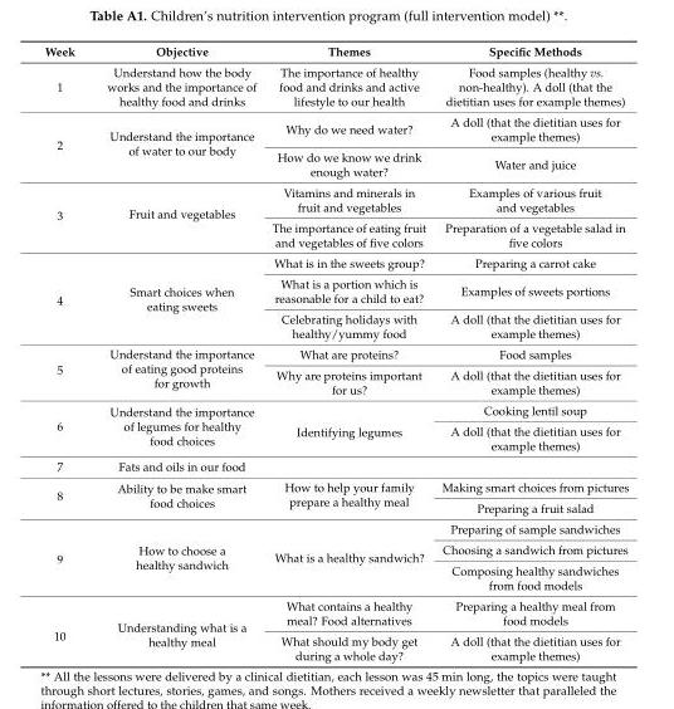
<table><thead><tr><td>Week</td><td>Objective</td><td>Themes</td><td>Specific Methods</td></tr></thead><tbody><tr><td>1</td><td>Understand how the body works and the importance of healthy food and drinks</td><td>The importance of healthy food and drinks and active lifestyle to our health</td><td>Food samples (healthy vs. non-healthy). A doll (that the dietitian uses for example themes)</td></tr><tr><td rowspan="2">2</td><td rowspan="2">Understand the importance of water to our body</td><td>Why do we need water?</td><td>A doll (that the dietitian uses for example themes)</td></tr><tr><td>How do we know we drink enough water?</td><td>Water and juice</td></tr><tr><td rowspan="2">3</td><td rowspan="2">Fruit and vegetables</td><td>Vitamins and minerals in fruit and vegetables</td><td>Examples of various fruit and vegetables</td></tr><tr><td>The importance of eating fruit and vegetables of five colors</td><td>Preparation of a vegetable salad in five colors</td></tr><tr><td rowspan="3">4</td><td rowspan="3">Smart choices when eating sweets</td><td>What is in the sweets group?</td><td>Preparing a carrot cake</td></tr><tr><td>What is a portion which is reasonable for a child to eat?</td><td>Examples of sweets portions</td></tr><tr><td>Celebrating holidays with healthy/yummy food</td><td>A doll (that the dietitian uses for example themes)</td></tr><tr><td rowspan="2">5</td><td rowspan="2">Understand the importance of eating good proteins for growth</td><td>What are proteins?</td><td>Food samples</td></tr><tr><td>Why are proteins important for us?</td><td>A doll (that the dietitian uses for example themes)</td></tr><tr><td rowspan="2">6</td><td rowspan="2">Understand the importance of legumes for healthy food choices</td><td rowspan="2">Identifying legumes</td><td>Cooking lentil soup</td></tr><tr><td>A doll (that the dietitian uses for example themes)</td></tr><tr><td>7</td><td>Fats and oils in our food</td><td></td><td></td></tr><tr><td rowspan="2">8</td><td rowspan="2">Ability to be make smart food choices</td><td rowspan="2">How to help your family prepare a healthy meal</td><td>Making smart choices from pictures</td></tr><tr><td>Preparing a fruit salad</td></tr><tr><td rowspan="3">9</td><td rowspan="3">How to choose a healthy sandwich</td><td rowspan="3">What is a healthy sandwich?</td><td>Preparing of sample sandwiches</td></tr><tr><td>Choosing a sandwich from pictures</td></tr><tr><td>Composing healthy sandwiches from food models</td></tr><tr><td rowspan="2">10</td><td rowspan="2">Understanding what is a healthy meal</td><td>What contains a healthy meal? Food alternatives</td><td>Preparing a healthy meal from food models</td></tr><tr><td>What should my body get during a whole day?</td><td>A doll (that the dietitian uses for example themes)</td></tr></tbody></table>